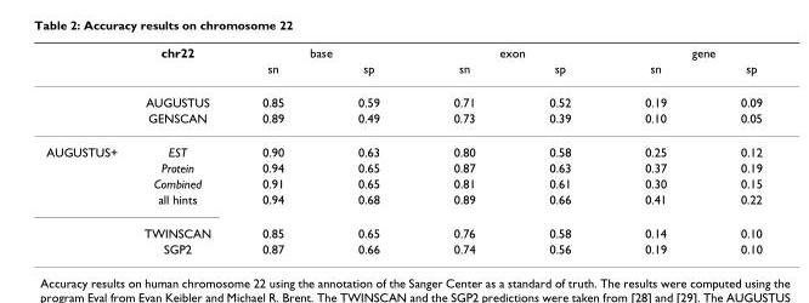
<table><thead><tr><td rowspan="2"></td><td rowspan="2">chr22</td><td colspan="2">base</td><td colspan="2">exon</td><td colspan="2">gene</td></tr><tr><td>sn</td><td>sp</td><td>sn</td><td>sp</td><td>sn</td><td>sp</td></tr></thead><tbody><tr><td></td><td>AUGUSTUS</td><td>0.85</td><td>0.59</td><td>0.71</td><td>0.52</td><td>0.19</td><td>0.09</td></tr><tr><td></td><td>GENSCAN</td><td>0.89</td><td>0.49</td><td>0.73</td><td>0.39</td><td>0.10</td><td>0.05</td></tr><tr><td rowspan="6">AUGUSTUS+</td><td>EST</td><td>0.90</td><td>0.63</td><td>0.80</td><td>0.58</td><td>0.25</td><td>0.12</td></tr><tr><td>Protein</td><td>0.94</td><td>0.65</td><td>0.87</td><td>0.63</td><td>0.37</td><td>0.19</td></tr><tr><td>Combined</td><td>0.91</td><td>0.65</td><td>0.81</td><td>0.61</td><td>0.30</td><td>0.15</td></tr><tr><td>all hints</td><td>0.94</td><td>0.68</td><td>0.89</td><td>0.66</td><td>0.41</td><td>0.22</td></tr><tr><td>TWINSCAN</td><td>0.85</td><td>0.65</td><td>0.76</td><td>0.58</td><td>0.14</td><td>0.10</td></tr><tr><td>SGP2</td><td>0.87</td><td>0.66</td><td>0.74</td><td>0.56</td><td>0.19</td><td>0.10</td></tr></tbody></table>